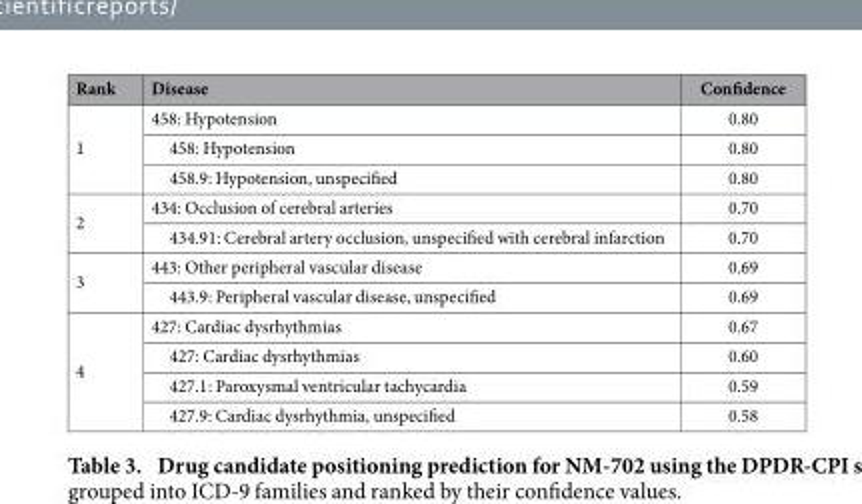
<table><thead><tr><td>Rank</td><td>Disease</td><td>Confidence</td></tr></thead><tbody><tr><td rowspan="3">1</td><td>458: Hypotension</td><td>0.80</td></tr><tr><td>458: Hypotension</td><td>0.80</td></tr><tr><td>458.9: Hypotension, unspecified</td><td>0.80</td></tr><tr><td rowspan="2">2</td><td>434: Occlusion of cerebral arteries</td><td>0.70</td></tr><tr><td>434.91: Cerebral artery occlusion, unspecified with cerebral infarction</td><td>0.70</td></tr><tr><td rowspan="2">3</td><td>443: Other peripheral vascular disease</td><td>0.69</td></tr><tr><td>443.9: Peripheral vascular disease, unspecified</td><td>0.69</td></tr><tr><td rowspan="4">4</td><td>427: Cardiac dysrhythmias</td><td>0.67</td></tr><tr><td>427: Cardiac dysrhythmias</td><td>0.60</td></tr><tr><td>427.1: Paroxysmal ventricular tachycardia</td><td>0.59</td></tr><tr><td>427.9: Cardiac dysrhythmia, unspecified</td><td>0.58</td></tr></tbody></table>